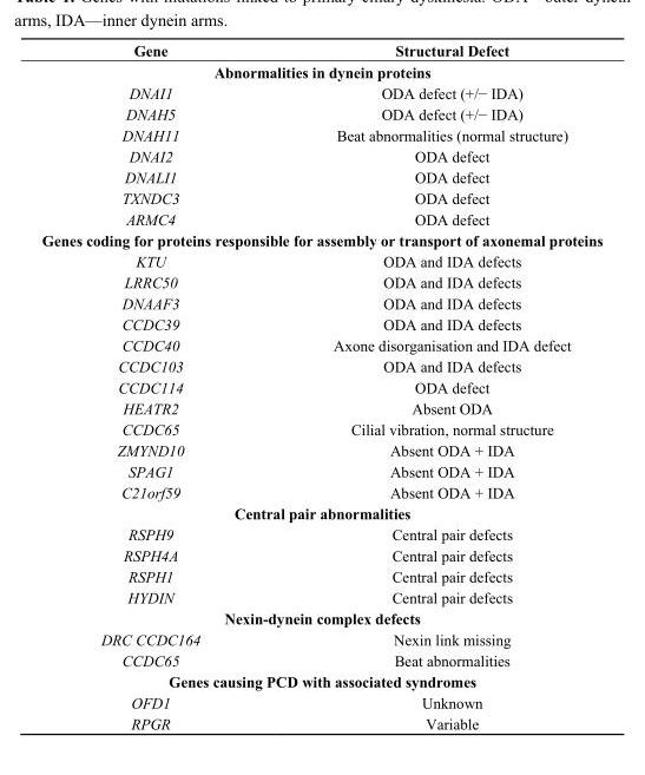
<table><thead><tr><td>Gene</td><td>Structural Defect</td></tr></thead><tbody><tr><td colspan="2">Abnormalities in dynein proteins</td></tr><tr><td>DNAI1</td><td>ODA defect (+/− IDA)</td></tr><tr><td>DNAH5</td><td>ODA defect (+/− IDA)</td></tr><tr><td>DNAH11</td><td>Beat abnormalities (normal structure)</td></tr><tr><td>DNAI2</td><td>ODA defect</td></tr><tr><td>DNALI1</td><td>ODA defect</td></tr><tr><td>TXNDC3</td><td>ODA defect</td></tr><tr><td>ARMC4</td><td>ODA defect</td></tr><tr><td colspan="2">Genes coding for proteins responsible for assembly or transport of axonemal proteins</td></tr><tr><td>KTU</td><td>ODA and IDA defects</td></tr><tr><td>LRRC50</td><td>ODA and IDA defects</td></tr><tr><td>DNAAF3</td><td>ODA and IDA defects</td></tr><tr><td>CCDC39</td><td>ODA and IDA defects</td></tr><tr><td>CCDC40</td><td>Axone disorganisation and IDA defect</td></tr><tr><td>CCDC103</td><td>ODA and IDA defects</td></tr><tr><td>CCDC114</td><td>ODA defect</td></tr><tr><td>HEATR2</td><td>Absent ODA</td></tr><tr><td>CCDC65</td><td>Cilial vibration, normal structure</td></tr><tr><td>ZMYND10</td><td>Absent ODA + IDA</td></tr><tr><td>SPAG1</td><td>Absent ODA + IDA</td></tr><tr><td>C21orf59</td><td>Absent ODA + IDA</td></tr><tr><td colspan="2">Central pair abnormalities</td></tr><tr><td>RSPH9</td><td>Central pair defects</td></tr><tr><td>RSPH4A</td><td>Central pair defects</td></tr><tr><td>RSPH1</td><td>Central pair defects</td></tr><tr><td>HYDIN</td><td>Central pair defects</td></tr><tr><td colspan="2">Nexin-dynein complex defects</td></tr><tr><td>DRC CCDC164</td><td>Nexin link missing</td></tr><tr><td>CCDC65</td><td>Beat abnormalities</td></tr><tr><td colspan="2">Genes causing PCD with associated syndromes</td></tr><tr><td>OFD1</td><td>Unknown</td></tr><tr><td>RPGR</td><td>Variable</td></tr></tbody></table>